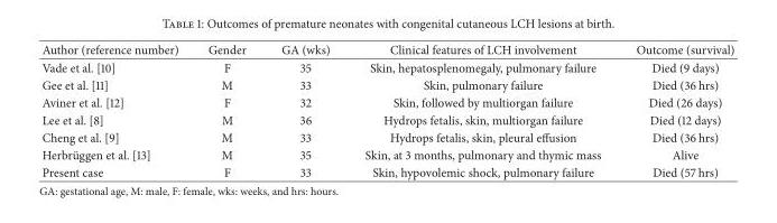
<table><thead><tr><td>Author (reference number)</td><td>Gender</td><td>GA (wks)</td><td>Clinical features of LCH involvement</td><td>Outcome (survival)</td></tr></thead><tbody><tr><td>Vade et al. [10]</td><td>F</td><td>35</td><td>Skin, hepatosplenomegaly, pulmonary failure</td><td>Died (9 days)</td></tr><tr><td>Gee et al. [11]</td><td>M</td><td>33</td><td>Skin, pulmonary failure</td><td>Died (36 hrs)</td></tr><tr><td>Aviner et al. [12]</td><td>F</td><td>32</td><td>Skin, followed by multiorgan failure</td><td>Died (26 days)</td></tr><tr><td>Lee et al. [8]</td><td>M</td><td>36</td><td>Hydrops fetalis, skin, multiorgan failure</td><td>Died (12 days)</td></tr><tr><td>Cheng et al. [9]</td><td>M</td><td>33</td><td>Hydrops fetalis, skin, pleural effusion</td><td>Died (36 hrs)</td></tr><tr><td>Herbr¨uggen et al. [13]</td><td>M</td><td>35</td><td>Skin, at 3 months, pulmonary and thymic mass</td><td>Alive</td></tr><tr><td>Present case</td><td>F</td><td>33</td><td>Skin, hypovolemic shock, pulmonary failure</td><td>Died (57 hrs)</td></tr></tbody></table>